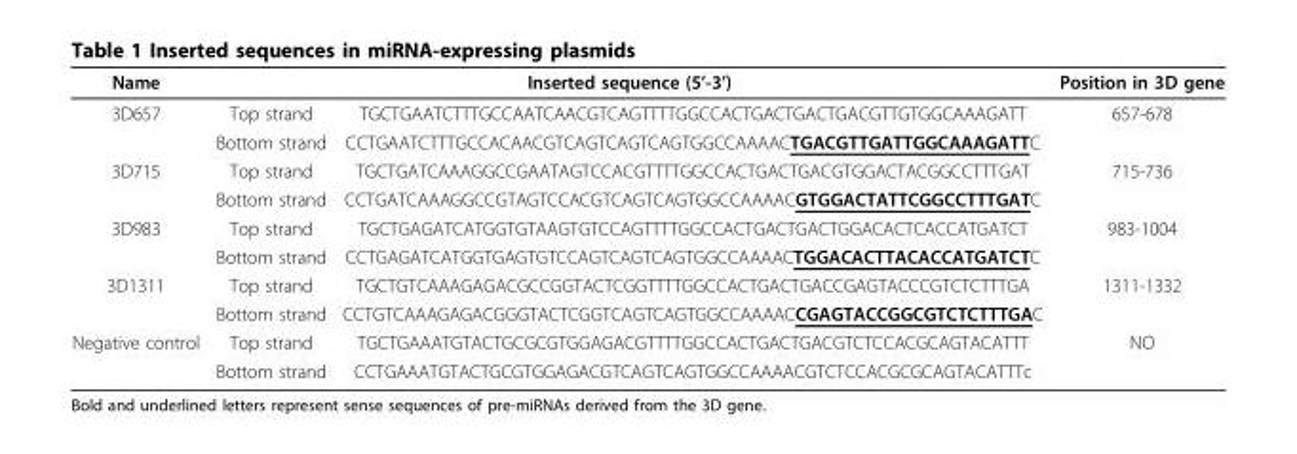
<table><thead><tr><td rowspan="2">Name 3D657</td><td colspan="2">Inserted sequence (5’-3’)</td><td rowspan="2">Position in 3D gene 657-678</td></tr><tr><td>Top strand</td><td>TGCTGAATCTTTGCCAATCAACGTCAGTTTTGGCCACTGACTGACTGACGTTGTGGCAAAGATT</td></tr></thead><tbody><tr><td></td><td>Bottom strand</td><td>CCTGAATCTTTGCCACAACGTCAGTCAGTCAGTGGCCAAAACTGACGTTGATTGGCAAAGATTC</td><td></td></tr><tr><td rowspan="2">3D715</td><td>Top strand</td><td>TGCTGATCAAAGGCCGAATAGTCCACGTTTTGGCCACTGACTGACGTGGACTACGGCCTTTGAT</td><td>715-736</td></tr><tr><td>Bottom strand</td><td>CCTGATCAAAGGCCGTAGTCCACGTCAGTCAGTGGCCAAAACGTGGACTATTCGGCCTTTGATC</td><td></td></tr><tr><td rowspan="2">3D983</td><td>Top strand</td><td>TGCTGAGATCATGGTGTAAGTGTCCAGTTTTGGCCACTGACTGACTGGACACTCACCATGATCT</td><td>983-1004</td></tr><tr><td>Bottom strand</td><td>CCTGAGATCATGGTGAGTGTCCAGTCAGTCAGTGGCCAAAACTGGACACTTACACCATGATCTC</td><td></td></tr><tr><td rowspan="2">3D1311</td><td>Top strand</td><td>TGCTGTCAAAGAGACGCCGGTACTCGGTTTTGGCCACTGACTGACCGAGTACCCGTCTCTTTGA</td><td>1311-1332</td></tr><tr><td>Bottom strand</td><td>CCTGTCAAAGAGACGGGTACTCGGTCAGTCAGTGGCCAAAACCGAGTACCGGCGTCTCTTTGAC</td><td></td></tr><tr><td rowspan="2">Negative control</td><td>Top strand</td><td>TGCTGAAATGTACTGCGCGTGGAGACGTTTTGGCCACTGACTGACGTCTCCACGCAGTACATTT</td><td>NO</td></tr><tr><td>Bottom strand</td><td>CCTGAAATGTACTGCGTGGAGACGTCAGTCAGTGGCCAAAACGTCTCCACGCGCAGTACATTTc</td><td></td></tr></tbody></table>